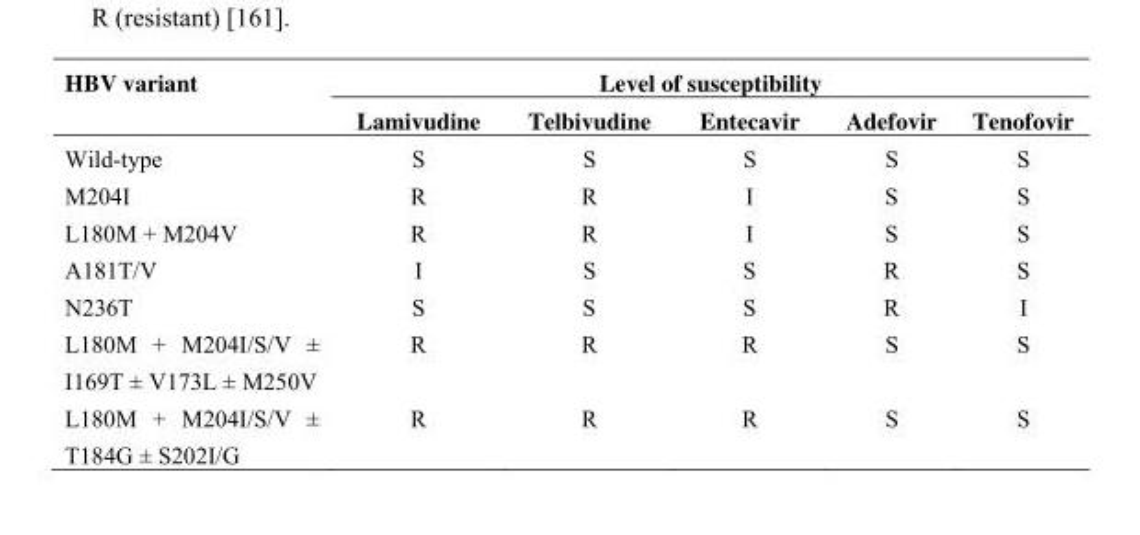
<table><thead><tr><td rowspan="2">HBV variant</td><td colspan="5">Level of susceptibility</td></tr><tr><td>Lamivudine</td><td>Telbivudine</td><td>Entecavir</td><td>Adefovir</td><td>Tenofovir</td></tr></thead><tbody><tr><td>Wild-type</td><td>S</td><td>S</td><td>S</td><td>S</td><td>S</td></tr><tr><td>M204I</td><td>R</td><td>R</td><td>I</td><td>S</td><td>S</td></tr><tr><td>L180M + M204V</td><td>R</td><td>R</td><td>I</td><td>S</td><td>S</td></tr><tr><td>A181T/V</td><td>I</td><td>S</td><td>S</td><td>R</td><td>S</td></tr><tr><td>N236T</td><td>S</td><td>S</td><td>S</td><td>R</td><td>I</td></tr><tr><td>L180M + M204I/S/V ± I169T ± V173L ± M250V</td><td>R</td><td>R</td><td>R</td><td>S</td><td>S</td></tr><tr><td>L180M + M204I/S/V ± T184G ± S202I/G</td><td>R</td><td>R</td><td>R</td><td>S</td><td>S</td></tr></tbody></table>